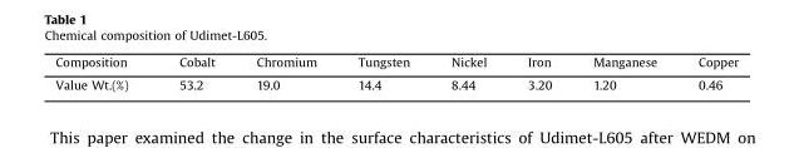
<table><thead><tr><td>Composition</td><td>Cobalt</td><td>Chromium</td><td>Tungsten</td><td>Nickel</td><td>Iron</td><td>Manganese</td><td>Copper</td></tr></thead><tbody><tr><td>Value Wt.(%)</td><td>53.2</td><td>19.0</td><td>14.4</td><td>8.44</td><td>3.20</td><td>1.20</td><td>0.46</td></tr></tbody></table>